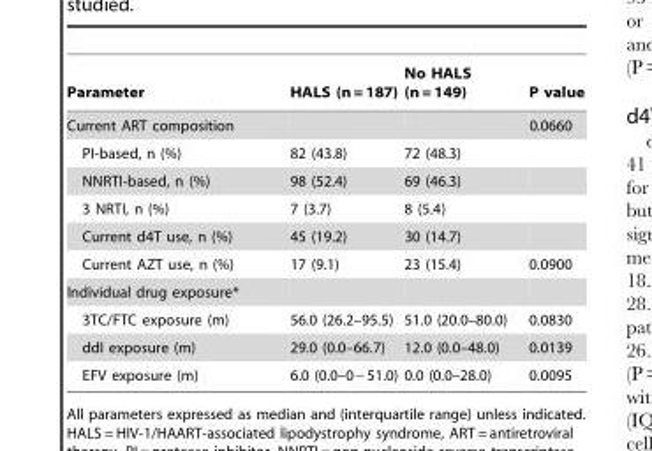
<table><thead><tr><td>Parameter</td><td>HALS (n = 187)</td><td>No HALS (n = 149)</td><td>P value</td></tr></thead><tbody><tr><td>Current ART composition</td><td></td><td></td><td>0.0660</td></tr><tr><td>PI-based, n (%)</td><td>82 (43.8)</td><td>72 (48.3)</td><td></td></tr><tr><td>NNRTI-based, n (%)</td><td>98 (52.4)</td><td>69 (46.3)</td><td></td></tr><tr><td>3 NRTI, n (%)</td><td>7 (3.7)</td><td>8 (5.4)</td><td></td></tr><tr><td>Current d4T use, n (%)</td><td>45 (19.2)</td><td>30 (14.7)</td><td></td></tr><tr><td>Current AZT use, n (%)</td><td>17 (9.1)</td><td>23 (15.4)</td><td>0.0900</td></tr><tr><td colspan="4">Individual drug exposure*</td></tr><tr><td>3TC/FTC exposure (m)</td><td>56.0 (26.2–95.5)</td><td>51.0 (20.0–80.0)</td><td>0.0830</td></tr><tr><td>ddI exposure (m)</td><td>29.0 (0.0–66.7)</td><td>12.0 (0.0–48.0)</td><td>0.0139</td></tr><tr><td>EFV exposure (m)</td><td>6.0 (0.0–0−51.0)</td><td>0.0 (0.0–28.0)</td><td>0.0095</td></tr></tbody></table>